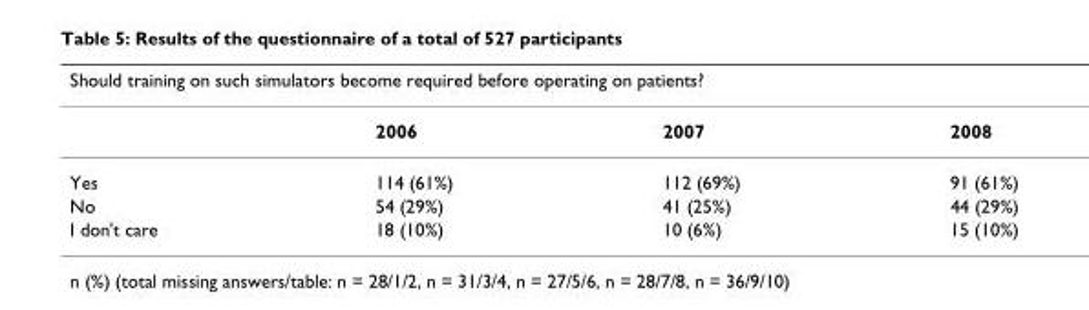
<table><thead><tr><td colspan="4">Should training on such simulators become required before operating on patients?</td></tr><tr><td></td><td>2006</td><td>2007</td><td>2008</td></tr></thead><tbody><tr><td>Yes</td><td>114 (61%)</td><td>112 (69%)</td><td>91 (61%)</td></tr><tr><td>No</td><td>54 (29%)</td><td>41 (25%)</td><td>44 (29%)</td></tr><tr><td>I don&#x27;t care</td><td>18 (10%)</td><td>10 (6%)</td><td>15 (10%)</td></tr></tbody></table>